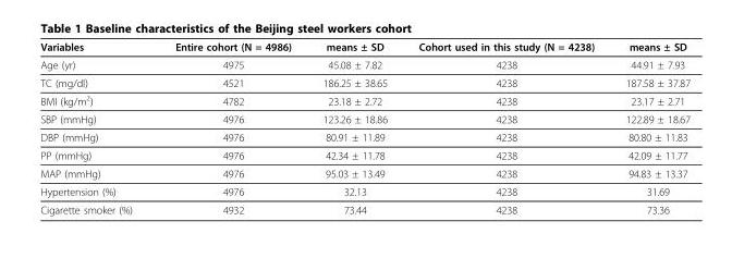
<table><thead><tr><td>Variables</td><td>Entire cohort (N = 4986)</td><td>means ± SD</td><td>Cohort used in this study (N = 4238)</td><td>means ± SD</td></tr></thead><tbody><tr><td>Age (yr)</td><td>4975</td><td>45.08 ± 7.82</td><td>4238</td><td>44.91 ± 7.93</td></tr><tr><td>TC (mg/dl)</td><td>4521</td><td>186.25 ± 38.65</td><td>4238</td><td>187.58 ± 37.87</td></tr><tr><td>BMI (kg/m<sup>2</sup>)</td><td>4782</td><td>23.18 ± 2.72</td><td>4238</td><td>23.17 ± 2.71</td></tr><tr><td>SBP (mmHg)</td><td>4976</td><td>123.26 ± 18.86</td><td>4238</td><td>122.89 ± 18.67</td></tr><tr><td>DBP (mmHg)</td><td>4976</td><td>80.91 ± 11.89</td><td>4238</td><td>80.80 ± 11.83</td></tr><tr><td>PP (mmHg)</td><td>4976</td><td>42.34 ± 11.78</td><td>4238</td><td>42.09 ± 11.77</td></tr><tr><td>MAP (mmHg)</td><td>4976</td><td>95.03 ± 13.49</td><td>4238</td><td>94.83 ± 13.37</td></tr><tr><td>Hypertension (%)</td><td>4976</td><td>32.13</td><td>4238</td><td>31.69</td></tr><tr><td>Cigarette smoker (%)</td><td>4932</td><td>73.44</td><td>4238</td><td>73.36</td></tr></tbody></table>